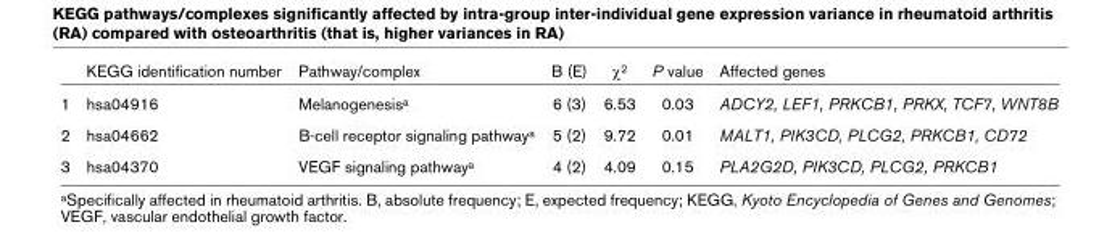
<table><thead><tr><td></td><td>KEGG identification number</td><td>Pathway/complex</td><td>B (E)</td><td>χ<sup>2</sup></td><td>P value</td><td>Affected genes</td></tr></thead><tbody><tr><td>1</td><td>hsa04916</td><td>Melanogenesis<sup>a</sup></td><td>6 (3)</td><td>6.53</td><td>0.03</td><td>ADCY2, LEF1, PRKCB1, PRKX, TCF7, WNT8B</td></tr><tr><td>2</td><td>hsa04662</td><td>B-cell receptor signaling pathway<sup>a</sup></td><td>5 (2)</td><td>9.72</td><td>0.01</td><td>MALT1, PIK3CD, PLCG2, PRKCB1, CD72</td></tr><tr><td>3</td><td>hsa04370</td><td>VEGF signaling pathway<sup>a</sup></td><td>4 (2)</td><td>4.09</td><td>0.15</td><td>PLA2G2D, PIK3CD, PLCG2, PRKCB1</td></tr></tbody></table>